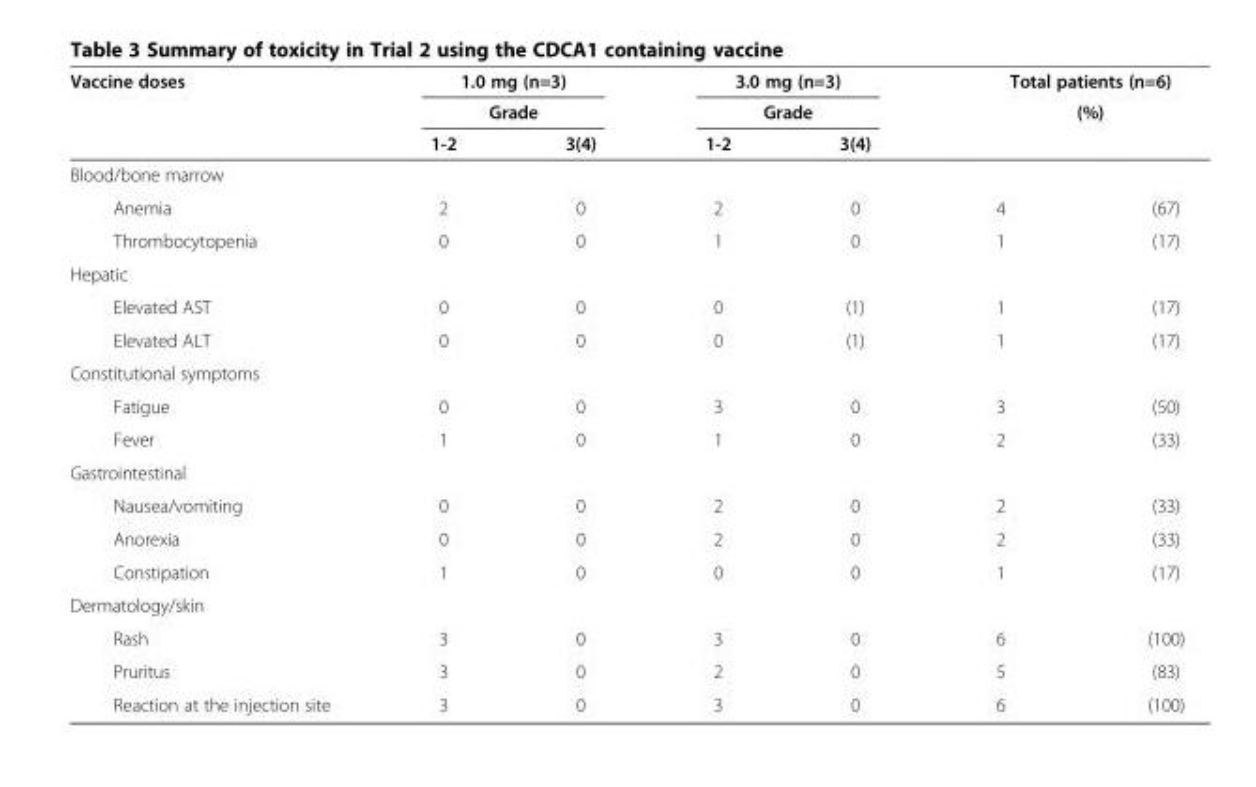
<table><thead><tr><td rowspan="3">Vaccine doses</td><td rowspan="2" colspan="2">1.0 mg (n=3) Grade</td><td rowspan="2" colspan="2">3.0 mg (n=3) Grade</td><td rowspan="2" colspan="2">Total patients (n=6) (%)</td></tr><tr></tr><tr><td>1-2</td><td>3(4)</td><td>1-2</td><td>3(4)</td><td></td><td></td></tr></thead><tbody><tr><td colspan="7">Blood/bone marrow</td></tr><tr><td>Anemia</td><td>2</td><td>0</td><td>2</td><td>0</td><td>4</td><td>(67)</td></tr><tr><td>Thrombocytopenia</td><td>0</td><td>0</td><td>1</td><td>0</td><td>1</td><td>(17)</td></tr><tr><td colspan="7">Hepatic</td></tr><tr><td>Elevated AST</td><td>0</td><td>0</td><td>0</td><td>(1)</td><td>1</td><td>(17)</td></tr><tr><td>Elevated ALT</td><td>0</td><td>0</td><td>0</td><td>(1)</td><td>1</td><td>(17)</td></tr><tr><td colspan="7">Constitutional symptoms</td></tr><tr><td>Fatigue</td><td>0</td><td>0</td><td>3</td><td>0</td><td>3</td><td>(50)</td></tr><tr><td>Fever</td><td>1</td><td>0</td><td>1</td><td>0</td><td>2</td><td>(33)</td></tr><tr><td colspan="7">Gastrointestinal</td></tr><tr><td>Nausea/vomiting</td><td>0</td><td>0</td><td>2</td><td>0</td><td>2</td><td>(33)</td></tr><tr><td>Anorexia</td><td>0</td><td>0</td><td>2</td><td>0</td><td>2</td><td>(33)</td></tr><tr><td>Constipation</td><td>1</td><td>0</td><td>0</td><td>0</td><td>1</td><td>(17)</td></tr><tr><td colspan="7">Dermatology/skin</td></tr><tr><td>Rash</td><td>3</td><td>0</td><td>3</td><td>0</td><td>6</td><td>(100)</td></tr><tr><td>Pruritus</td><td>3</td><td>0</td><td>2</td><td>0</td><td>5</td><td>(83)</td></tr><tr><td>Reaction at the injection site</td><td>3</td><td>0</td><td>3</td><td>0</td><td>6</td><td>(100)</td></tr></tbody></table>